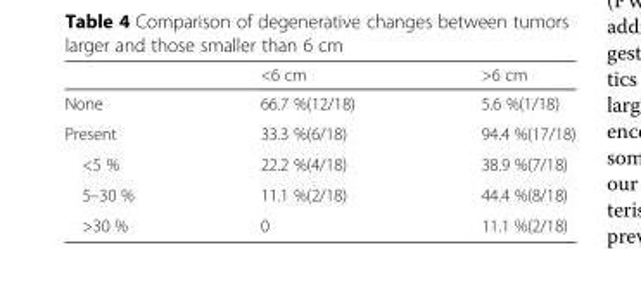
<table><thead><tr><td></td><td>&lt;6 cm</td><td>&gt;6 cm</td></tr></thead><tbody><tr><td>None</td><td>66.7 %(12/18)</td><td>5.6 %(1/18)</td></tr><tr><td>Present</td><td>33.3 %(6/18)</td><td>94.4 %(17/18)</td></tr><tr><td>&lt;5 %</td><td>22.2 %(4/18)</td><td>38.9 %(7/18)</td></tr><tr><td>5–30 %</td><td>11.1 %(2/18)</td><td>44.4 %(8/18)</td></tr><tr><td>&gt;30 %</td><td>0</td><td>11.1 %(2/18)</td></tr></tbody></table>